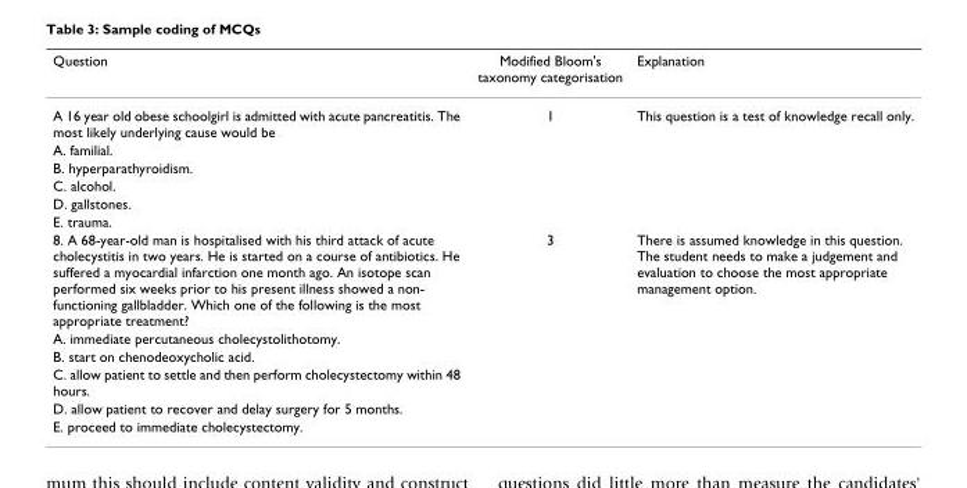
<table><thead><tr><td>Question</td><td>Modified Bloom&#x27;s taxonomy categorisation</td><td>Explanation</td></tr></thead><tbody><tr><td>A 16 year old obese schoolgirl is admitted with acute pancreatitis. The most likely underlying cause would be</td><td>1</td><td>This question is a test of knowledge recall only.</td></tr><tr><td colspan="3">A. familial.</td></tr><tr><td colspan="3">B. hyperparathyroidism.</td></tr><tr><td colspan="3">C. alcohol.</td></tr><tr><td colspan="3">D. gallstones.</td></tr><tr><td colspan="3">E. trauma.</td></tr><tr><td>8. A 68-year-old man is hospitalised with his third attack of acute cholecystitis in two years. He is started on a course of antibiotics. He suffered a myocardial infarction one month ago. An isotope scan performed six weeks prior to his present illness showed a non- functioning gallbladder. Which one of the following is the most appropriate treatment?</td><td>3</td><td>There is assumed knowledge in this question. The student needs to make a judgement and evaluation to choose the most appropriate management option.</td></tr><tr><td colspan="3">A. immediate percutaneous cholecystolithotomy.</td></tr><tr><td colspan="3">B. start on chenodeoxycholic acid.</td></tr><tr><td colspan="3">C. allow patient to settle and then perform cholecystectomy within 48 hours.</td></tr><tr><td colspan="3">D. allow patient to recover and delay surgery for 5 months.</td></tr><tr><td>E. proceed to immediate cholecystectomy.</td><td></td><td></td></tr></tbody></table>